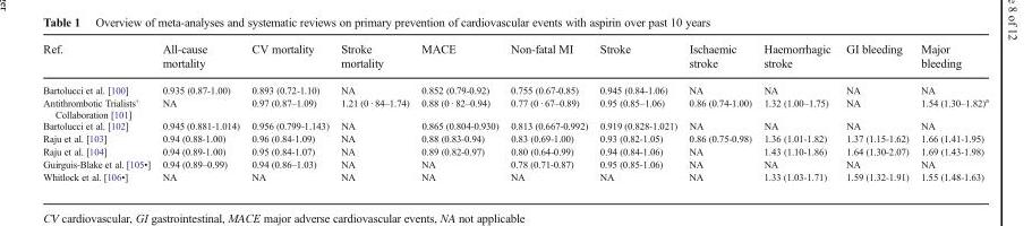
<table><thead><tr><td>Ref.</td><td>All-cause mortality</td><td>CV mortality</td><td>Stroke mortality</td><td>MACE</td><td>Non-fatal MI</td><td>Stroke</td><td>Ischaemic stroke</td><td>Haemorrhagic stroke</td><td>GI bleeding</td><td>Major bleeding</td></tr></thead><tbody><tr><td>Bartolucci et al. [100]</td><td>0.935 (0.87-1.00)</td><td>0.893 (0.72-1.10)</td><td>NA</td><td>0.852 (0.79-0.92)</td><td>0.755 (0.67-0.85)</td><td>0.945 (0.84-1.06)</td><td>NA</td><td>NA</td><td>NA</td><td>NA</td></tr><tr><td>Antithrombotic Trialists’ Collaboration [101]</td><td>NA</td><td>0.97 (0.87–1.09)</td><td>1.21 (0 · 84–1.74)</td><td>0.88 (0 · 82–0.94)</td><td>0.77 (0 · 67–0.89)</td><td>0.95 (0.85–1.06)</td><td>0.86 (0.74-1.00)</td><td>1.32 (1.00–1.75)</td><td>NA</td><td>1.54 (1.30–1.82)<sup>a</sup></td></tr><tr><td>Bartolucci et al. [102]</td><td>0.945 (0.881-1.014)</td><td>0.956 (0.799-1.143)</td><td>NA</td><td>0.865 (0.804-0.930)</td><td>0.813 (0.667-0.992)</td><td>0.919 (0.828-1.021)</td><td>NA</td><td>NA</td><td>NA</td><td>NA</td></tr><tr><td>Raju et al. [103]</td><td>0.94 (0.88-1.00)</td><td>0.96 (0.84-1.09)</td><td>NA</td><td>0.88 (0.83-0.94)</td><td>0.83 (0.69-1.00)</td><td>0.93 (0.82-1.05)</td><td>0.86 (0.75-0.98)</td><td>1.36 (1.01-1.82)</td><td>1.37 (1.15-1.62)</td><td>1.66 (1.41-1.95)</td></tr><tr><td>Raju et al. [104]</td><td>0.94 (0.89-1.00)</td><td>0.95 (0.84-1.07)</td><td>NA</td><td>0.89 (0.82-0.97)</td><td>0.80 (0.64-0.99)</td><td>0.94 (0.84-1.06)</td><td>NA</td><td>1.43 (1.10-1.86)</td><td>1.64 (1.30-2.07)</td><td>1.69 (1.43-1.98)</td></tr><tr><td>Guirguis-Blake et al. [105•]</td><td>0.94 (0.89–0.99)</td><td>0.94 (0.86–1.03)</td><td>NA</td><td>NA</td><td>0.78 (0.71-0.87)</td><td>0.95 (0.85-1.06)</td><td>NA</td><td>NA</td><td>NA</td><td>NA</td></tr><tr><td>Whitlock et al. [106•]</td><td>NA</td><td>NA</td><td>NA</td><td>NA</td><td>NA</td><td>NA</td><td>NA</td><td>1.33 (1.03-1.71)</td><td>1.59 (1.32-1.91)</td><td>1.55 (1.48-1.63)</td></tr></tbody></table>